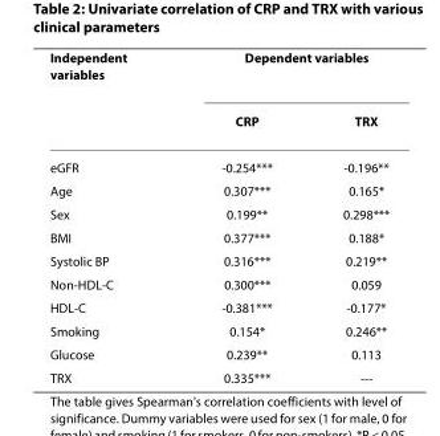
<table><thead><tr><td rowspan="2">Independent variables</td><td colspan="2">Dependent variables</td></tr><tr><td>CRP</td><td>TRX</td></tr></thead><tbody><tr><td>eGFR</td><td>-0.254***</td><td>-0.196**</td></tr><tr><td>Age</td><td>0.307***</td><td>0.165*</td></tr><tr><td>Sex</td><td>0.199**</td><td>0.298***</td></tr><tr><td>BMI</td><td>0.377***</td><td>0.188*</td></tr><tr><td>Systolic BP</td><td>0.316***</td><td>0.219**</td></tr><tr><td>Non-HDL-C</td><td>0.300***</td><td>0.059</td></tr><tr><td>HDL-C</td><td>-0.381***</td><td>-0.177*</td></tr><tr><td>Smoking</td><td>0.154*</td><td>0.246**</td></tr><tr><td>Glucose</td><td>0.239**</td><td>0.113</td></tr><tr><td>TRX</td><td>0.335***</td><td>---</td></tr></tbody></table>